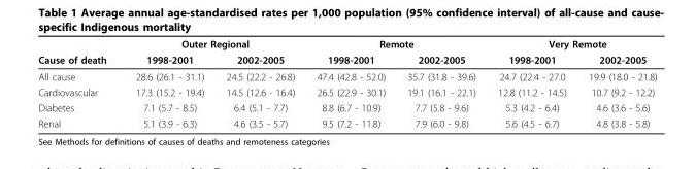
<table><thead><tr><td rowspan="2">Cause of death</td><td colspan="2">Outer Regional</td><td colspan="2">Remote</td><td colspan="2">Very Remote</td></tr><tr><td>1998-2001</td><td>2002-2005</td><td>1998-2001</td><td>2002-2005</td><td>1998-2001</td><td>2002-2005</td></tr></thead><tbody><tr><td>All cause</td><td>28.6 (26.1 - 31.1)</td><td>24.5 (22.2 - 26.8)</td><td>47.4 (42.8 - 52.0)</td><td>35.7 (31.8 - 39.6)</td><td>24.7 (22.4 - 27.0</td><td>19.9 (18.0 - 21.8)</td></tr><tr><td>Cardiovascular</td><td>17.3 (15.2 - 19.4)</td><td>14.5 (12.6 - 16.4)</td><td>26.5 (22.9 - 30.1)</td><td>19.1 (16.1 - 22.1)</td><td>12.8 (11.2 - 14.5)</td><td>10.7 (9.2 - 12.2)</td></tr><tr><td>Diabetes</td><td>7.1 (5.7 - 8.5)</td><td>6.4 (5.1 - 7.7)</td><td>8.8 (6.7 - 10.9)</td><td>7.7 (5.8 - 9.6)</td><td>5.3 (4.2 - 6.4)</td><td>4.6 (3.6 - 5.6)</td></tr><tr><td>Renal</td><td>5.1 (3.9 - 6.3)</td><td>4.6 (3.5 - 5.7)</td><td>9.5 (7.2 - 11.8)</td><td>7.9 (6.0 - 9.8)</td><td>5.6 (4.5 - 6.7)</td><td>4.8 (3.8 - 5.8)</td></tr></tbody></table>